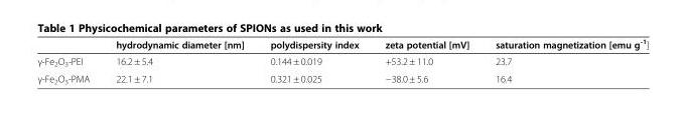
<table><thead><tr><td></td><td>hydrodynamic diameter [nm]</td><td>polydispersity index</td><td>zeta potential [mV]</td><td>saturation magnetization [emu g<sup>-1</sup>]</td></tr></thead><tbody><tr><td>γ-Fe<sub>2</sub>O<sub>3</sub>-PEI</td><td>16.2 ± 5.4</td><td>0.144 ± 0.019</td><td>+53.2 ± 11.0</td><td>23.7</td></tr><tr><td>γ-Fe<sub>2</sub>O<sub>3</sub>-PMA</td><td>22.1 ± 7.1</td><td>0.321 ± 0.025</td><td>−38.0 ± 5.6</td><td>16.4</td></tr></tbody></table>